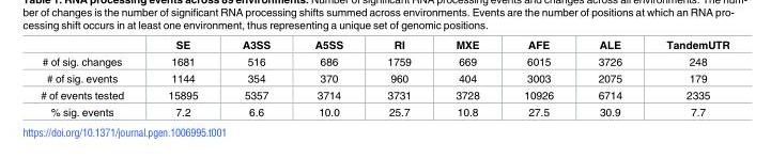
<table><thead><tr><td></td><td>SE</td><td>A3SS</td><td>A5SS</td><td>RI</td><td>MXE</td><td>AFE</td><td>ALE</td><td>TandemUTR</td></tr></thead><tbody><tr><td># of sig. changes</td><td>1681</td><td>516</td><td>686</td><td>1759</td><td>669</td><td>6015</td><td>3726</td><td>248</td></tr><tr><td># of sig. events</td><td>1144</td><td>354</td><td>370</td><td>960</td><td>404</td><td>3003</td><td>2075</td><td>179</td></tr><tr><td># of events tested</td><td>15895</td><td>5357</td><td>3714</td><td>3731</td><td>3728</td><td>10926</td><td>6714</td><td>2335</td></tr><tr><td>% sig. events</td><td>7.2</td><td>6.6</td><td>10.0</td><td>25.7</td><td>10.8</td><td>27.5</td><td>30.9</td><td>7.7</td></tr></tbody></table>